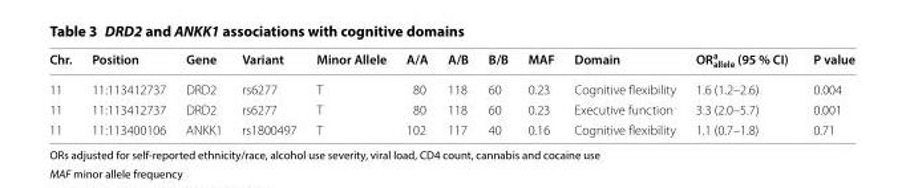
<table><thead><tr><td>Chr.</td><td>Position</td><td>Gene</td><td>Variant</td><td>Minor Allele</td><td>A/A</td><td>A/B</td><td>B/B</td><td>MAF</td><td>Domain</td><td>ORa allele (95 % CI)</td><td>P value</td></tr></thead><tbody><tr><td>11</td><td>11:113412737</td><td>DRD2</td><td>rs6277</td><td>T</td><td>80</td><td>118</td><td>60</td><td>0.23</td><td>Cognitive flexibility</td><td>1.6 (1.2–2.6)</td><td>0.004</td></tr><tr><td>11</td><td>11:113412737</td><td>DRD2</td><td>rs6277</td><td>T</td><td>80</td><td>118</td><td>60</td><td>0.23</td><td>Executive function</td><td>3.3 (2.0–5.7)</td><td>0.001</td></tr><tr><td>11</td><td>11:113400106</td><td>ANKK1</td><td>rs1800497</td><td>T</td><td>102</td><td>117</td><td>40</td><td>0.16</td><td>Cognitive flexibility</td><td>1.1 (0.7–1.8)</td><td>0.71</td></tr></tbody></table>